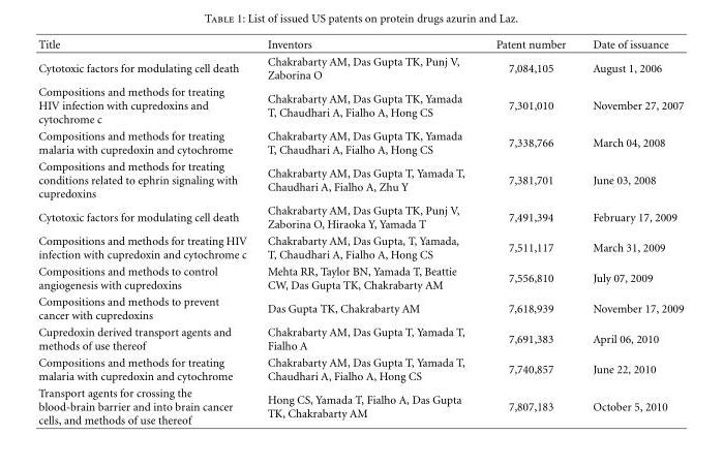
<table><thead><tr><td>Title</td><td>Inventors</td><td>Patent number</td><td>Date of issuance</td></tr></thead><tbody><tr><td>Cytotoxic factors for modulating cell death</td><td>Chakrabarty AM, Das Gupta TK, Punj V, Zaborina O</td><td>7,084,105</td><td>August 1, 2006</td></tr><tr><td>Compositions and methods for treating HIV infection with cupredoxins and cytochrome c</td><td>Chakrabarty AM, Das Gupta TK, Yamada T, Chaudhari A, Fialho A, Hong CS</td><td>7,301,010</td><td>November 27, 2007</td></tr><tr><td>Compositions and methods for treating malaria with cupredoxin and cytochrome</td><td>Chakrabarty AM, Das Gupta TK, Yamada T, Chaudhari A, Fialho A, Hong CS</td><td>7,338,766</td><td>March 04, 2008</td></tr><tr><td>Compositions and methods for treating conditions related to ephrin signaling with cupredoxins</td><td>Chakrabarty AM, Das Gupta T, Yamada T, Chaudhari A, Fialho A, Zhu Y</td><td>7,381,701</td><td>June 03, 2008</td></tr><tr><td>Cytotoxic factors for modulating cell death</td><td>Chakrabarty AM, Das Gupta TK, Punj V, Zaborina O, Hiraoka Y, Yamada T</td><td>7,491,394</td><td>February 17, 2009</td></tr><tr><td>Compositions and methods for treating HIV infection with cupredoxin and cytochrome c</td><td>Chakrabarty AM, Das Gupta, T, Yamada, T, Chaudhari A, Fialho A, Hong CS</td><td>7,511,117</td><td>March 31, 2009</td></tr><tr><td>Compositions and methods to control angiogenesis with cupredoxins</td><td>Mehta RR, Taylor BN, Yamada T, Beattie CW, Das Gupta TK, Chakrabarty AM</td><td>7,556,810</td><td>July 07, 2009</td></tr><tr><td>Compositions and methods to prevent cancer with cupredoxins</td><td>Das Gupta TK, Chakrabarty AM</td><td>7,618,939</td><td>November 17, 2009</td></tr><tr><td>Cupredoxin derived transport agents and methods of use thereof</td><td>Chakrabarty AM, Das Gupta T, Yamada T, Fialho A</td><td>7,691,383</td><td>April 06, 2010</td></tr><tr><td>Compositions and methods for treating malaria with cupredoxin and cytochrome</td><td>Chakrabarty AM, Das Gupta T, Yamada T, Chaudhari A, Fialho A, Hong CS</td><td>7,740,857</td><td>June 22, 2010</td></tr><tr><td>Transport agents for crossing the blood-brain barrier and into brain cancer cells, and methods of use thereof</td><td>Hong CS, Yamada T, Fialho A, Das Gupta TK, Chakrabarty AM</td><td>7,807,183</td><td>October 5, 2010</td></tr></tbody></table>